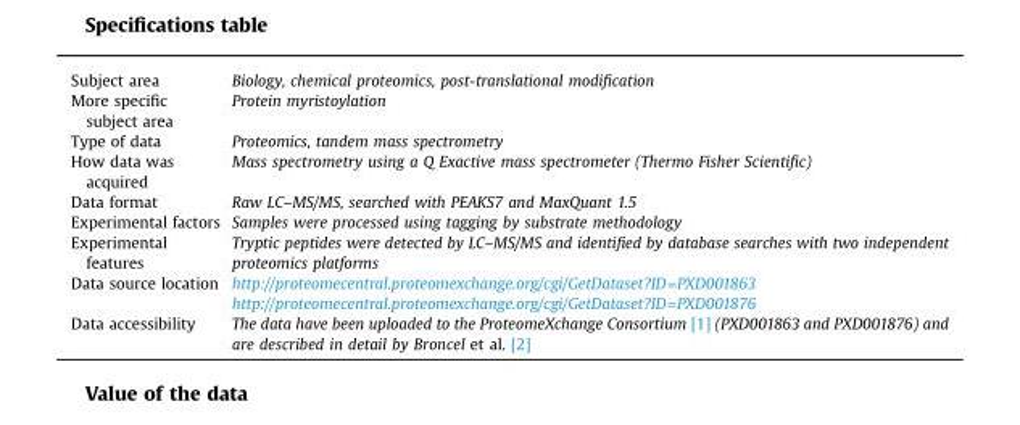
<table><tbody><tr><td>Subject area</td><td>Biology, chemical proteomics, post-translational modification</td></tr><tr><td>More specific subject area</td><td>Protein myristoylation</td></tr><tr><td>Type of data</td><td>Proteomics, tandem mass spectrometry</td></tr><tr><td>How data was acquired</td><td>Mass spectrometry using a Q Exactive mass spectrometer (Thermo Fisher Scientific)</td></tr><tr><td>Data format</td><td>Raw LC–MS/MS, searched with PEAKS7 and MaxQuant 1.5</td></tr><tr><td>Experimental factors</td><td>Samples were processed using tagging by substrate methodology</td></tr><tr><td>Experimental features</td><td>Tryptic peptides were detected by LC–MS/MS and identified by database searches with two independent proteomics platforms</td></tr><tr><td rowspan="2">Data source location</td><td>http://proteomecentral.proteomexchange.org/cgi/GetDataset?ID=PXD001863</td></tr><tr><td>http://proteomecentral.proteomexchange.org/cgi/GetDataset?ID=PXD001876</td></tr><tr><td>Data accessibility</td><td>The data have been uploaded to the ProteomeXchange Consortium [1] (PXD001863 and PXD001876) and are described in detail by Broncel et al. [2]</td></tr></tbody></table>